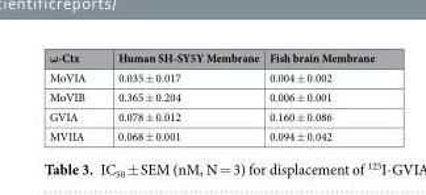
<table><thead><tr><td>ω-Ctx</td><td>Human SH-SY5Y Membrane</td><td>Fish brain Membrane</td></tr></thead><tbody><tr><td>MoVIA</td><td>0.035 ± 0.017</td><td>0.004 ± 0.002</td></tr><tr><td>MoVIB</td><td>0.365 ± 0.204</td><td>0.006 ± 0.001</td></tr><tr><td>GVIA</td><td>0.078 ± 0.012</td><td>0.160 ± 0.086</td></tr><tr><td>MVIIA</td><td>0.068 ± 0.001</td><td>0.094 ± 0.042</td></tr></tbody></table>